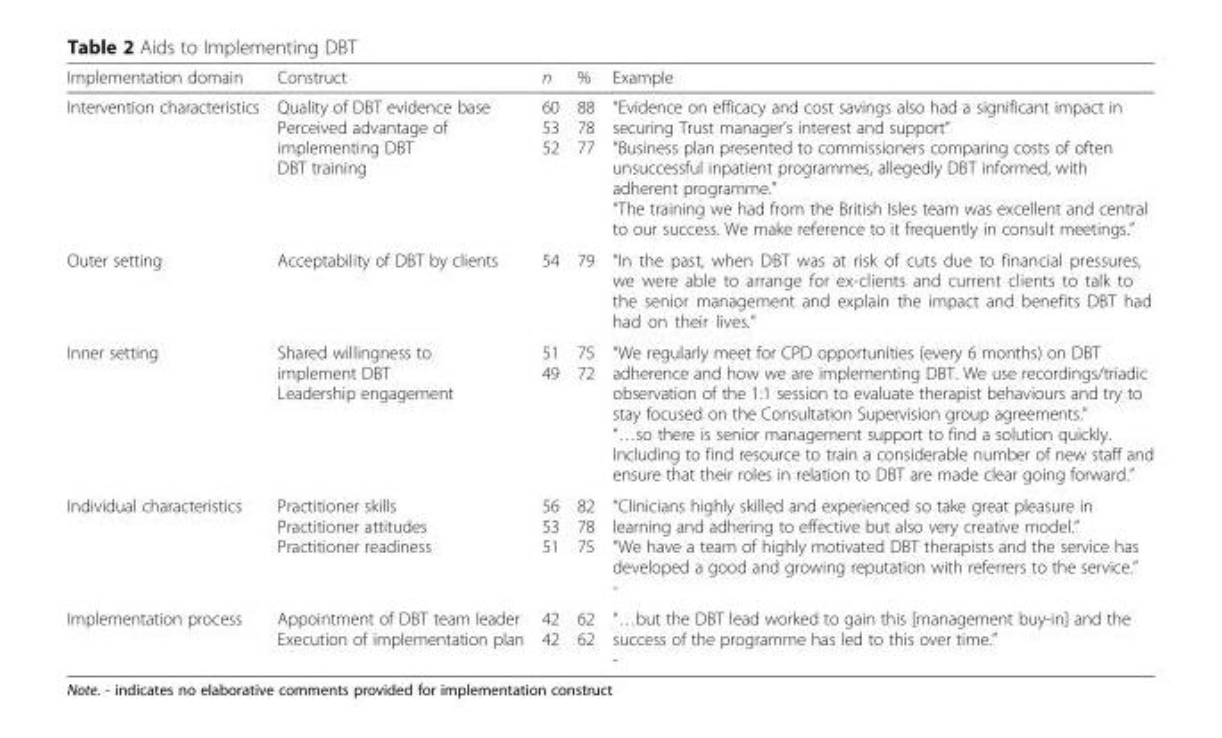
<table><thead><tr><td>Implementation domain</td><td>Construct</td><td>n</td><td>%</td><td>Example</td></tr></thead><tbody><tr><td>Intervention characteristics</td><td>Quality of DBT evidence base Perceived advantage of implementing DBT DBT training</td><td>60 53 52</td><td>88 78 77</td><td>“Evidence on efficacy and cost savings also had a significant impact in securing Trust manager’s interest and support” “Business plan presented to commissioners comparing costs of often unsuccessful inpatient programmes, allegedly DBT informed, with adherent programme.” “The training we had from the British Isles team was excellent and central to our success. We make reference to it frequently in consult meetings.”</td></tr><tr><td>Outer setting</td><td>Acceptability of DBT by clients</td><td>54</td><td>79</td><td>“In the past, when DBT was at risk of cuts due to financial pressures, we were able to arrange for ex-clients and current clients to talk to the senior management and explain the impact and benefits DBT had had on their lives.”</td></tr><tr><td>Inner setting</td><td>Shared willingness to implement DBT Leadership engagement</td><td>51 49</td><td>75 72</td><td>“We regularly meet for CPD opportunities (every 6 months) on DBT adherence and how we are implementing DBT. We use recordings/triadic observation of the 1:1 session to evaluate therapist behaviours and try to stay focused on the Consultation Supervision group agreements.” “…so there is senior management support to find a solution quickly. Including to find resource to train a considerable number of new staff and ensure that their roles in relation to DBT are made clear going forward.”</td></tr><tr><td>Individual characteristics</td><td>Practitioner skills Practitioner attitudes Practitioner readiness</td><td>56 53 51</td><td>82 78 75</td><td>“Clinicians highly skilled and experienced so take great pleasure in learning and adhering to effective but also very creative model.” “We have a team of highly motivated DBT therapists and the service has developed a good and growing reputation with referrers to the service.” -</td></tr><tr><td>Implementation process</td><td>Appointment of DBT team leader Execution of implementation plan</td><td>42 42</td><td>62 62</td><td>“…but the DBT lead worked to gain this [management buy-in] and the success of the programme has led to this over time.” -</td></tr></tbody></table>